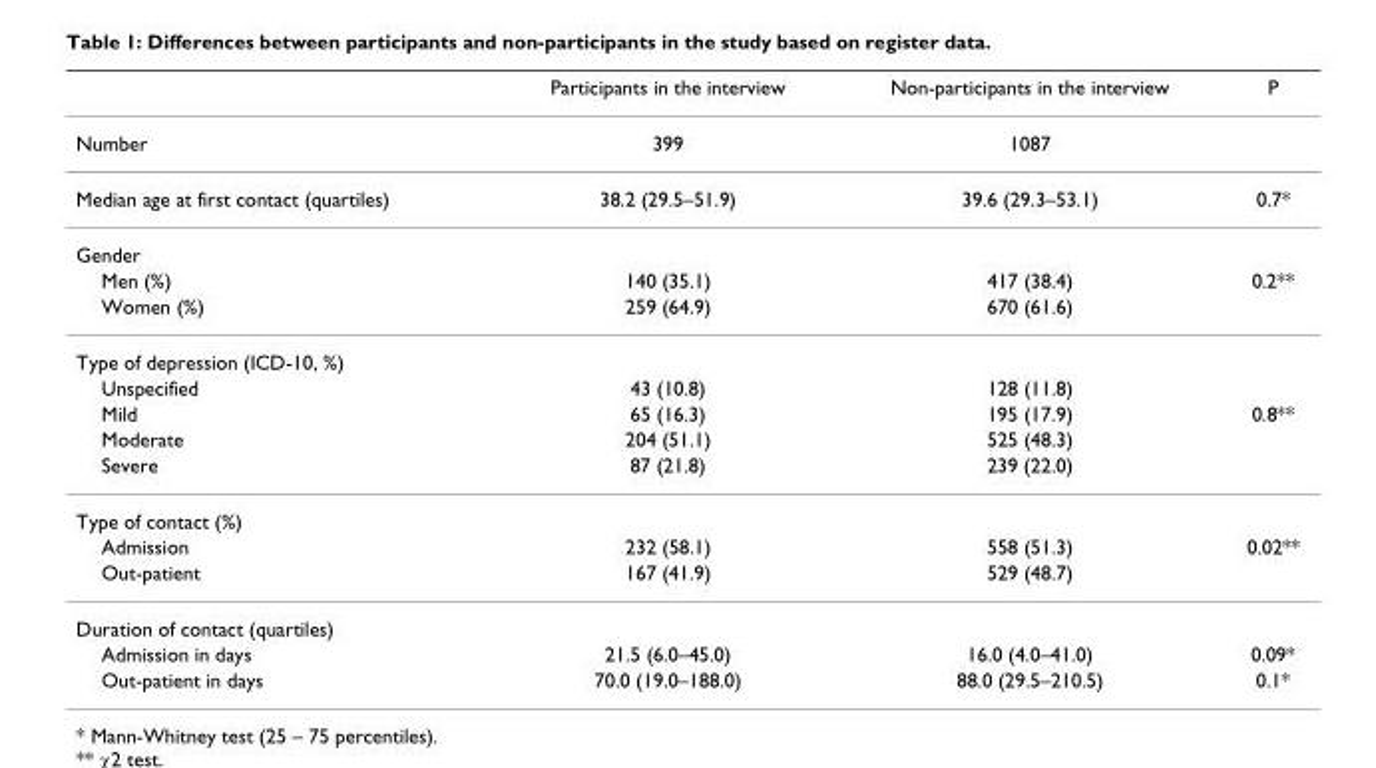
<table><thead><tr><td></td><td>Participants in the interview</td><td>Non-participants in the interview</td><td>P</td></tr></thead><tbody><tr><td>Number</td><td>399</td><td>1087</td><td></td></tr><tr><td>Median age at first contact (quartiles)</td><td>38.2 (29.5–51.9)</td><td>39.6 (29.3–53.1)</td><td>0.7*</td></tr><tr><td colspan="4">Gender</td></tr><tr><td>Men (%)</td><td>140 (35.1)</td><td>417 (38.4)</td><td>0.2**</td></tr><tr><td>Women (%)</td><td>259 (64.9)</td><td>670 (61.6)</td><td></td></tr><tr><td colspan="4">Type of depression (ICD-10, %)</td></tr><tr><td>Unspecified</td><td>43 (10.8)</td><td>128 (11.8)</td><td></td></tr><tr><td>Mild</td><td>65 (16.3)</td><td>195 (17.9)</td><td>0.8**</td></tr><tr><td>Moderate</td><td>204 (51.1)</td><td>525 (48.3)</td><td></td></tr><tr><td>Severe</td><td>87 (21.8)</td><td>239 (22.0)</td><td></td></tr><tr><td colspan="4">Type of contact (%)</td></tr><tr><td>Admission</td><td>232 (58.1)</td><td>558 (51.3)</td><td>0.02**</td></tr><tr><td>Out-patient</td><td>167 (41.9)</td><td>529 (48.7)</td><td></td></tr><tr><td colspan="4">Duration of contact (quartiles)</td></tr><tr><td>Admission in days</td><td>21.5 (6.0–45.0)</td><td>16.0 (4.0–41.0)</td><td>0.09*</td></tr><tr><td>Out-patient in days</td><td>70.0 (19.0–188.0)</td><td>88.0 (29.5–210.5)</td><td>0.1*</td></tr></tbody></table>